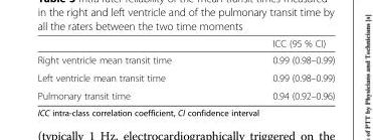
<table><thead><tr><td></td><td>ICC (95 % CI)</td></tr></thead><tbody><tr><td>Right ventricle mean transit time</td><td>0.99 (0.98–0.99)</td></tr><tr><td>Left ventricle mean transit time</td><td>0.99 (0.98–0.99)</td></tr><tr><td>Pulmonary transit time</td><td>0.94 (0.92–0.96)</td></tr></tbody></table>